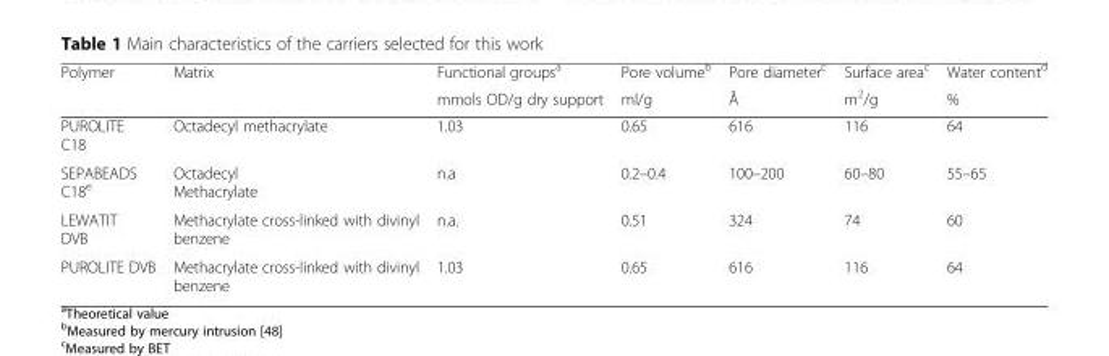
<table><thead><tr><td rowspan="2">Polymer</td><td rowspan="2">Matrix</td><td rowspan="2">Functional groups<sup>a</sup> mmols OD/g dry support</td><td rowspan="2">Pore volume<sup>b</sup> ml/g</td><td rowspan="2">Pore diameter<sup>c</sup> Å</td><td rowspan="2">Surface area<sup>c</sup> m<sup>2</sup>/g</td><td rowspan="2">Water content<sup>d</sup> %</td></tr><tr></tr></thead><tbody><tr><td>PUROLITE C18</td><td>Octadecyl methacrylate</td><td>1.03</td><td>0.65</td><td>616</td><td>116</td><td>64</td></tr><tr><td>SEPABEADS C18<sup>e</sup></td><td>Octadecyl Methacrylate</td><td>n.a</td><td>0.2–0.4</td><td>100–200</td><td>60–80</td><td>55–65</td></tr><tr><td>LEWATIT DVB</td><td>Methacrylate cross-linked with divinyl benzene</td><td>n.a.</td><td>0.51</td><td>324</td><td>74</td><td>60</td></tr><tr><td>PUROLITE DVB</td><td>Methacrylate cross-linked with divinyl benzene</td><td>1.03</td><td>0.65</td><td>616</td><td>116</td><td>64</td></tr></tbody></table>